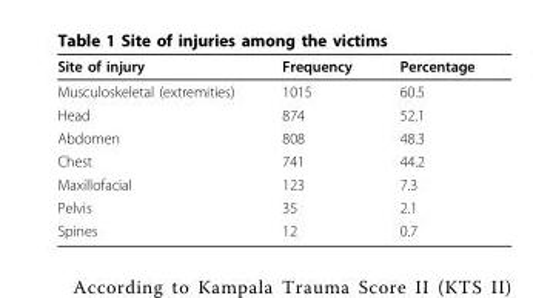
<table><thead><tr><td>Site of injury</td><td>Frequency</td><td>Percentage</td></tr></thead><tbody><tr><td>Musculoskeletal (extremities)</td><td>1015</td><td>60.5</td></tr><tr><td>Head</td><td>874</td><td>52.1</td></tr><tr><td>Abdomen</td><td>808</td><td>48.3</td></tr><tr><td>Chest</td><td>741</td><td>44.2</td></tr><tr><td>Maxillofacial</td><td>123</td><td>7.3</td></tr><tr><td>Pelvis</td><td>35</td><td>2.1</td></tr><tr><td>Spines</td><td>12</td><td>0.7</td></tr></tbody></table>